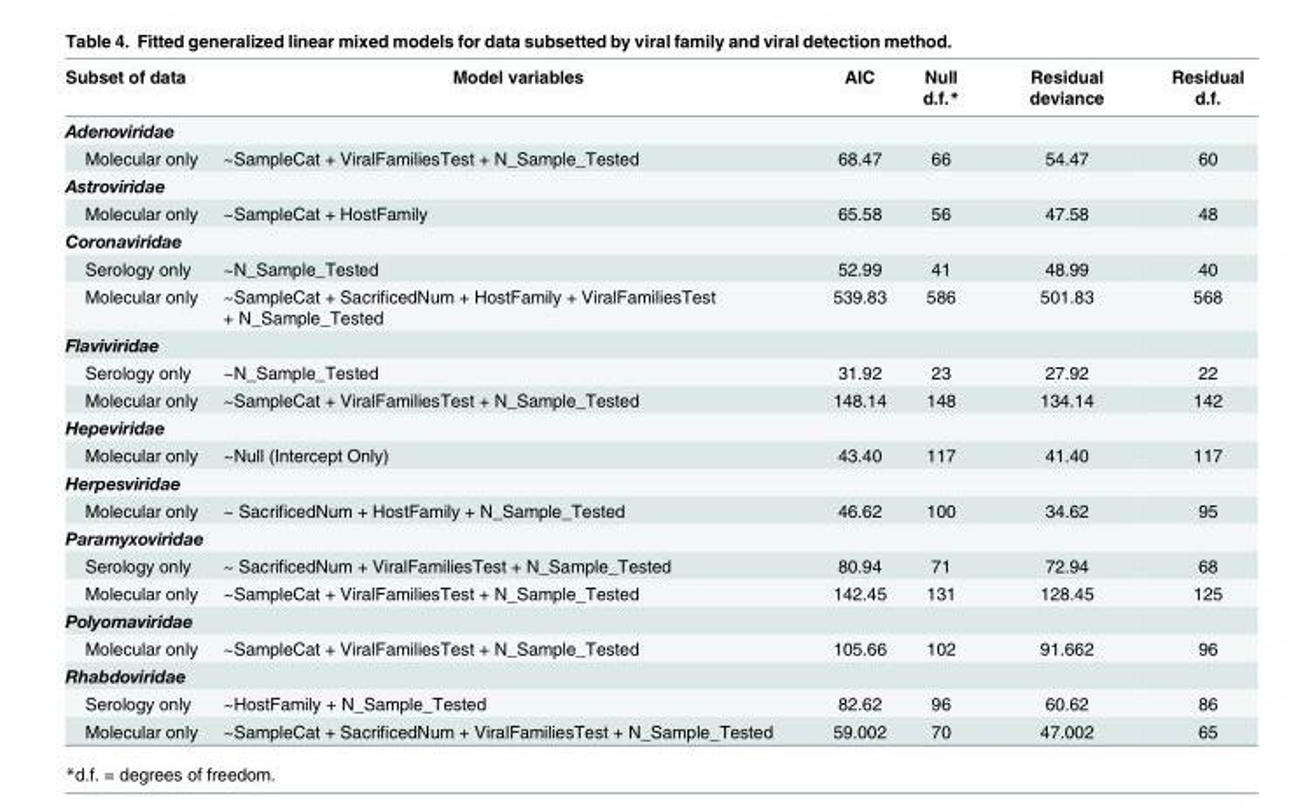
<table><thead><tr><td>Subset of data</td><td>Model variables</td><td>AIC</td><td>Null d.f.*</td><td>Residual deviance</td><td>Residual d.f.</td></tr></thead><tbody><tr><td colspan="6">Adenoviridae</td></tr><tr><td>Molecular only</td><td>~SampleCat + ViralFamiliesTest + N_Sample_Tested</td><td>68.47</td><td>66</td><td>54.47</td><td>60</td></tr><tr><td colspan="6">Astroviridae</td></tr><tr><td>Molecular only</td><td>~SampleCat + HostFamily</td><td>65.58</td><td>56</td><td>47.58</td><td>48</td></tr><tr><td colspan="6">Coronaviridae</td></tr><tr><td>Serology only</td><td>~N_Sample_Tested</td><td>52.99</td><td>41</td><td>48.99</td><td>40</td></tr><tr><td>Molecular only</td><td>~SampleCat + SacrificedNum + HostFamily + ViralFamiliesTest + N_Sample_Tested</td><td>539.83</td><td>586</td><td>501.83</td><td>568</td></tr><tr><td colspan="6">Flaviviridae</td></tr><tr><td>Serology only</td><td>~N_Sample_Tested</td><td>31.92</td><td>23</td><td>27.92</td><td>22</td></tr><tr><td>Molecular only</td><td>~SampleCat + ViralFamiliesTest + N_Sample_Tested</td><td>148.14</td><td>148</td><td>134.14</td><td>142</td></tr><tr><td colspan="6">Hepeviridae</td></tr><tr><td>Molecular only</td><td>~Null (Intercept Only)</td><td>43.40</td><td>117</td><td>41.40</td><td>117</td></tr><tr><td colspan="6">Herpesviridae</td></tr><tr><td>Molecular only</td><td>~ SacrificedNum + HostFamily + N_Sample_Tested</td><td>46.62</td><td>100</td><td>34.62</td><td>95</td></tr><tr><td colspan="6">Paramyxoviridae</td></tr><tr><td>Serology only</td><td>~ SacrificedNum + ViralFamiliesTest + N_Sample_Tested</td><td>80.94</td><td>71</td><td>72.94</td><td>68</td></tr><tr><td>Molecular only</td><td>~SampleCat + ViralFamiliesTest + N_Sample_Tested</td><td>142.45</td><td>131</td><td>128.45</td><td>125</td></tr><tr><td colspan="6">Polyomaviridae</td></tr><tr><td>Molecular only</td><td>~SampleCat + ViralFamiliesTest + N_Sample_Tested</td><td>105.66</td><td>102</td><td>91.662</td><td>96</td></tr><tr><td colspan="6">Rhabdoviridae</td></tr><tr><td>Serology only</td><td>~HostFamily + N_Sample_Tested</td><td>82.62</td><td>96</td><td>60.62</td><td>86</td></tr><tr><td>Molecular only</td><td>~SampleCat + SacrificedNum + ViralFamiliesTest + N_Sample_Tested</td><td>59.002</td><td>70</td><td>47.002</td><td>65</td></tr></tbody></table>